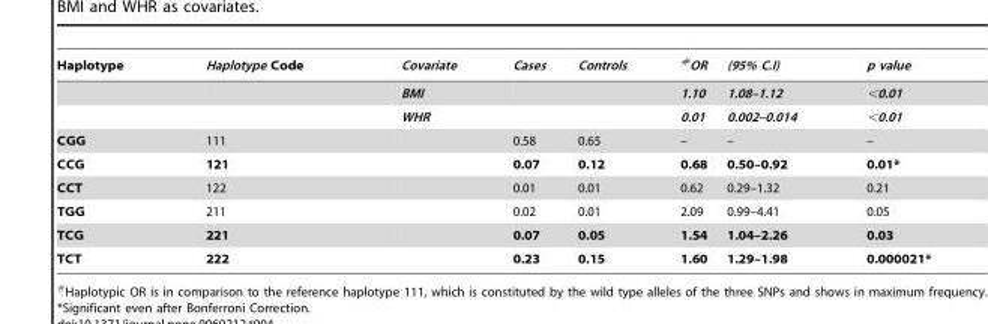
<table><thead><tr><td>Haplotype</td><td>Haplotype Code</td><td>Covariate</td><td>Cases</td><td>Controls</td><td>#OR</td><td>(95% C.I)</td><td>p value</td></tr></thead><tbody><tr><td></td><td></td><td>BMI</td><td></td><td></td><td>1.10</td><td>1.08–1.12</td><td>&lt;0.01</td></tr><tr><td></td><td></td><td>WHR</td><td></td><td></td><td>0.01</td><td>0.002–0.014</td><td>&lt;0.01</td></tr><tr><td>CGG</td><td>111</td><td></td><td>0.58</td><td>0.65</td><td>–</td><td>–</td><td>–</td></tr><tr><td>CCG</td><td>121</td><td></td><td>0.07</td><td>0.12</td><td>0.68</td><td>0.50–0.92</td><td>0.01*</td></tr><tr><td>CCT</td><td>122</td><td></td><td>0.01</td><td>0.01</td><td>0.62</td><td>0.29–1.32</td><td>0.21</td></tr><tr><td>TGG</td><td>211</td><td></td><td>0.02</td><td>0.01</td><td>2.09</td><td>0.99–4.41</td><td>0.05</td></tr><tr><td>TCG</td><td>221</td><td></td><td>0.07</td><td>0.05</td><td>1.54</td><td>1.04–2.26</td><td>0.03</td></tr><tr><td>TCT</td><td>222</td><td></td><td>0.23</td><td>0.15</td><td>1.60</td><td>1.29–1.98</td><td>0.000021*</td></tr></tbody></table>